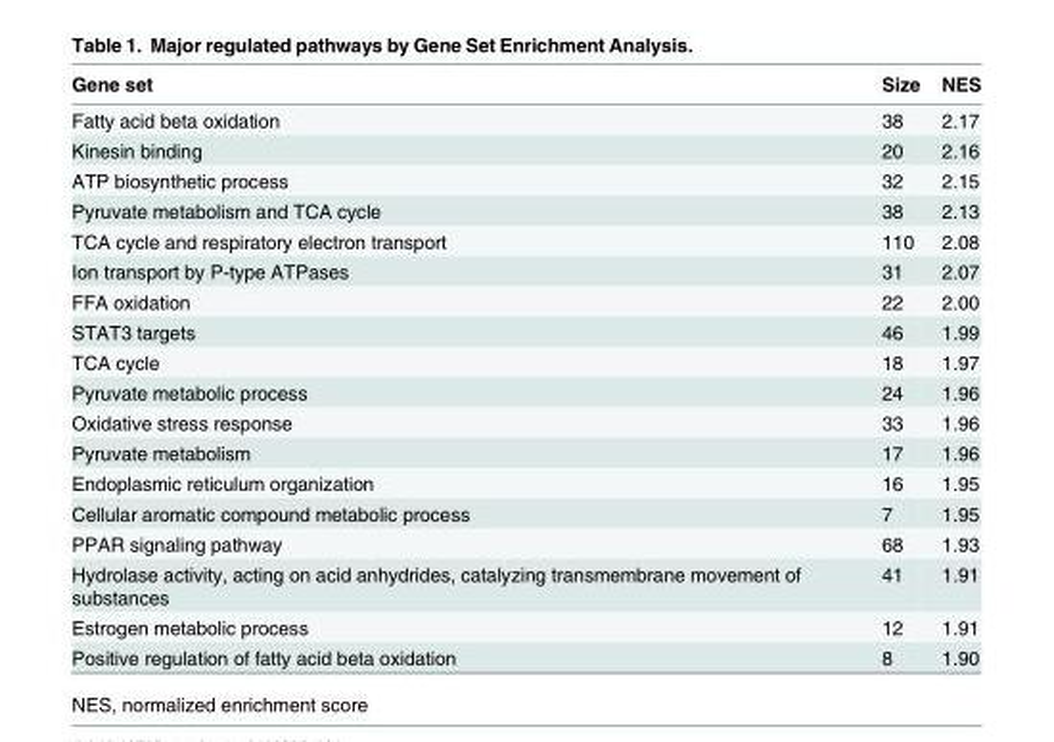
<table><thead><tr><td>Gene set</td><td>Size</td><td>NES</td></tr></thead><tbody><tr><td>Fatty acid beta oxidation</td><td>38</td><td>2.17</td></tr><tr><td>Kinesin binding</td><td>20</td><td>2.16</td></tr><tr><td>ATP biosynthetic process</td><td>32</td><td>2.15</td></tr><tr><td>Pyruvate metabolism and TCA cycle</td><td>38</td><td>2.13</td></tr><tr><td>TCA cycle and respiratory electron transport</td><td>110</td><td>2.08</td></tr><tr><td>Ion transport by P-type ATPases</td><td>31</td><td>2.07</td></tr><tr><td>FFA oxidation</td><td>22</td><td>2.00</td></tr><tr><td>STAT3 targets</td><td>46</td><td>1.99</td></tr><tr><td>TCA cycle</td><td>18</td><td>1.97</td></tr><tr><td>Pyruvate metabolic process</td><td>24</td><td>1.96</td></tr><tr><td>Oxidative stress response</td><td>33</td><td>1.96</td></tr><tr><td>Pyruvate metabolism</td><td>17</td><td>1.96</td></tr><tr><td>Endoplasmic reticulum organization</td><td>16</td><td>1.95</td></tr><tr><td>Cellular aromatic compound metabolic process</td><td>7</td><td>1.95</td></tr><tr><td>PPAR signaling pathway</td><td>68</td><td>1.93</td></tr><tr><td>Hydrolase activity, acting on acid anhydrides, catalyzing transmembrane movement of substances</td><td>41</td><td>1.91</td></tr><tr><td>Estrogen metabolic process</td><td>12</td><td>1.91</td></tr><tr><td>Positive regulation of fatty acid beta oxidation</td><td>8</td><td>1.90</td></tr></tbody></table>